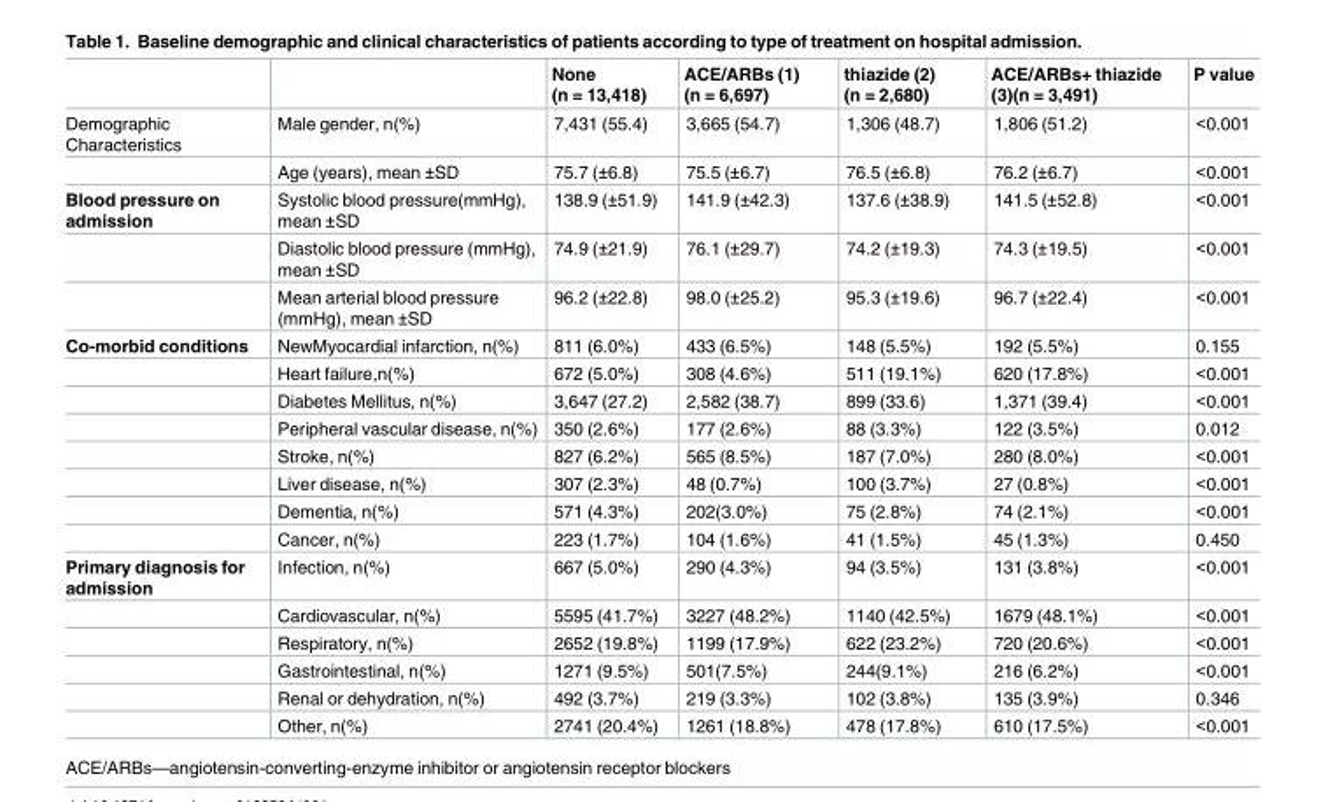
<table><thead><tr><td></td><td></td><td>None (n = 13,418)</td><td>ACE/ARBs (1) (n = 6,697)</td><td>thiazide (2) (n = 2,680)</td><td>ACE/ARBs+ thiazide (3)(n = 3,491)</td><td>P value</td></tr></thead><tbody><tr><td rowspan="2">Demographic Characteristics</td><td>Male gender, n(%)</td><td>7,431 (55.4)</td><td>3,665 (54.7)</td><td>1,306 (48.7)</td><td>1,806 (51.2)</td><td>&lt;0.001</td></tr><tr><td>Age (years), mean ±SD</td><td>75.7 (±6.8)</td><td>75.5 (±6.7)</td><td>76.5 (±6.8)</td><td>76.2 (±6.7)</td><td>&lt;0.001</td></tr><tr><td rowspan="3">Blood pressure on admission</td><td>Systolic blood pressure(mmHg), mean ±SD</td><td>138.9 (±51.9)</td><td>141.9 (±42.3)</td><td>137.6 (±38.9)</td><td>141.5 (±52.8)</td><td>&lt;0.001</td></tr><tr><td>Diastolic blood pressure (mmHg), mean ±SD</td><td>74.9 (±21.9)</td><td>76.1 (±29.7)</td><td>74.2 (±19.3)</td><td>74.3 (±19.5)</td><td>&lt;0.001</td></tr><tr><td>Mean arterial blood pressure (mmHg), mean ±SD</td><td>96.2 (±22.8)</td><td>98.0 (±25.2)</td><td>95.3 (±19.6)</td><td>96.7 (±22.4)</td><td>&lt;0.001</td></tr><tr><td rowspan="8">Co-morbid conditions</td><td>NewMyocardial infarction, n(%)</td><td>811 (6.0%)</td><td>433 (6.5%)</td><td>148 (5.5%)</td><td>192 (5.5%)</td><td>0.155</td></tr><tr><td>Heart failure,n(%)</td><td>672 (5.0%)</td><td>308 (4.6%)</td><td>511 (19.1%)</td><td>620 (17.8%)</td><td>&lt;0.001</td></tr><tr><td>Diabetes Mellitus, n(%)</td><td>3,647 (27.2)</td><td>2,582 (38.7)</td><td>899 (33.6)</td><td>1,371 (39.4)</td><td>&lt;0.001</td></tr><tr><td>Peripheral vascular disease, n(%)</td><td>350 (2.6%)</td><td>177 (2.6%)</td><td>88 (3.3%)</td><td>122 (3.5%)</td><td>0.012</td></tr><tr><td>Stroke, n(%)</td><td>827 (6.2%)</td><td>565 (8.5%)</td><td>187 (7.0%)</td><td>280 (8.0%)</td><td>&lt;0.001</td></tr><tr><td>Liver disease, n(%)</td><td>307 (2.3%)</td><td>48 (0.7%)</td><td>100 (3.7%)</td><td>27 (0.8%)</td><td>&lt;0.001</td></tr><tr><td>Dementia, n(%)</td><td>571 (4.3%)</td><td>202(3.0%)</td><td>75 (2.8%)</td><td>74 (2.1%)</td><td>&lt;0.001</td></tr><tr><td>Cancer, n(%)</td><td>223 (1.7%)</td><td>104 (1.6%)</td><td>41 (1.5%)</td><td>45 (1.3%)</td><td>0.450</td></tr><tr><td rowspan="6">Primary diagnosis for admission</td><td>Infection, n(%)</td><td>667 (5.0%)</td><td>290 (4.3%)</td><td>94 (3.5%)</td><td>131 (3.8%)</td><td>&lt;0.001</td></tr><tr><td>Cardiovascular, n(%)</td><td>5595 (41.7%)</td><td>3227 (48.2%)</td><td>1140 (42.5%)</td><td>1679 (48.1%)</td><td>&lt;0.001</td></tr><tr><td>Respiratory, n(%)</td><td>2652 (19.8%)</td><td>1199 (17.9%)</td><td>622 (23.2%)</td><td>720 (20.6%)</td><td>&lt;0.001</td></tr><tr><td>Gastrointestinal, n(%)</td><td>1271 (9.5%)</td><td>501(7.5%)</td><td>244(9.1%)</td><td>216 (6.2%)</td><td>&lt;0.001</td></tr><tr><td>Renal or dehydration, n(%)</td><td>492 (3.7%)</td><td>219 (3.3%)</td><td>102 (3.8%)</td><td>135 (3.9%)</td><td>0.346</td></tr><tr><td>Other, n(%)</td><td>2741 (20.4%)</td><td>1261 (18.8%)</td><td>478 (17.8%)</td><td>610 (17.5%)</td><td>&lt;0.001</td></tr></tbody></table>